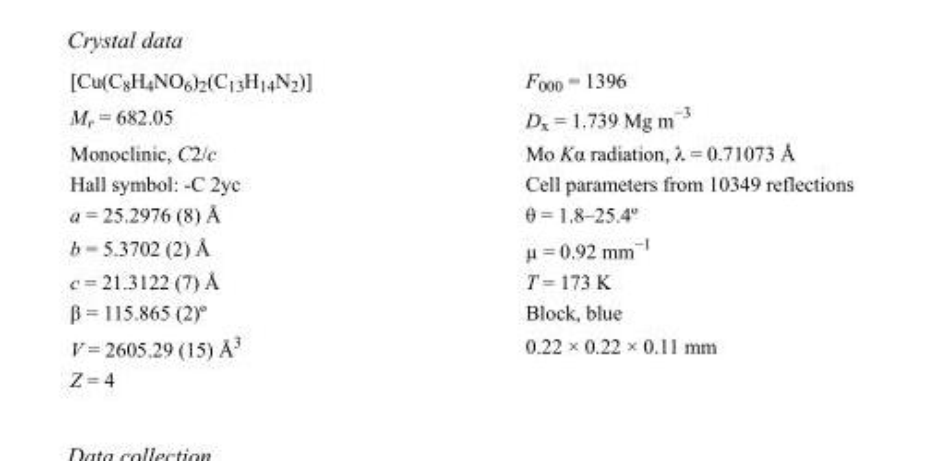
<table><tbody><tr><td>[Cu(C<sub>8</sub>H<sub>4</sub>NO<sub>6</sub>)<sub>2</sub>(C<sub>13</sub>H<sub>14</sub>N<sub>2</sub>)]</td><td>F000 = 1396</td></tr><tr><td>M<sub>r</sub> = 682.05</td><td>D<sub>x</sub> = 1.739 Mg m<sup>−3</sup></td></tr><tr><td>Monoclinic, C2/c</td><td>Mo Kα radiation, λ = 0.71073 Å</td></tr><tr><td>Hall symbol: -C 2yc</td><td>Cell parameters from 10349 reflections</td></tr><tr><td>a = 25.2976 (8) Å</td><td>θ = 1.8–25.4º</td></tr><tr><td>b = 5.3702 (2) Å</td><td>µ = 0.92 mm<sup>−1</sup></td></tr><tr><td>c = 21.3122 (7) Å</td><td>T = 173 K</td></tr><tr><td>β = 115.865 (2)º</td><td>Block, blue</td></tr><tr><td>V = 2605.29 (15) Å<sup>3</sup></td><td>0.22 × 0.22 × 0.11 mm</td></tr><tr><td>Z = 4</td><td></td></tr></tbody></table>